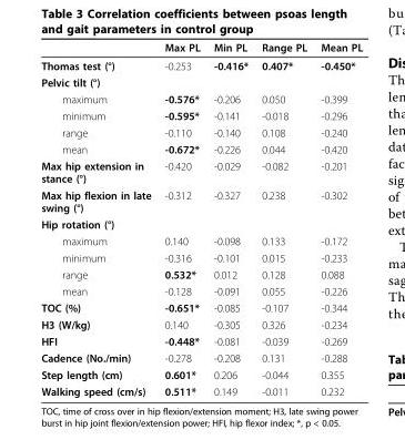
<table><thead><tr><td></td><td>Max PL</td><td>Min PL</td><td>Range PL</td><td>Mean PL</td></tr></thead><tbody><tr><td>Thomas test (°)</td><td>-0.253</td><td>-0.416*</td><td>0.407*</td><td>-0.450*</td></tr><tr><td colspan="5">Pelvic tilt (°)</td></tr><tr><td>maximum</td><td>-0.576*</td><td>-0.206</td><td>0.050</td><td>-0.399</td></tr><tr><td>minimum</td><td>-0.595*</td><td>-0.141</td><td>-0.018</td><td>-0.296</td></tr><tr><td>range</td><td>-0.110</td><td>-0.140</td><td>0.108</td><td>-0.240</td></tr><tr><td>mean</td><td>-0.672*</td><td>-0.226</td><td>0.044</td><td>-0.420</td></tr><tr><td>Max hip extension in stance (°)</td><td>-0.420</td><td>-0.029</td><td>-0.082</td><td>-0.201</td></tr><tr><td>Max hip flexion in late swing (°)</td><td>-0.312</td><td>-0.327</td><td>0.238</td><td>-0.302</td></tr><tr><td colspan="5">Hip rotation (°)</td></tr><tr><td>maximum</td><td>0.140</td><td>-0.098</td><td>0.133</td><td>-0.172</td></tr><tr><td>minimum</td><td>-0.316</td><td>-0.101</td><td>0.015</td><td>-0.233</td></tr><tr><td>range</td><td>0.532*</td><td>0.012</td><td>0.128</td><td>0.088</td></tr><tr><td>mean</td><td>-0.128</td><td>-0.091</td><td>0.055</td><td>-0.226</td></tr><tr><td>TOC (%)</td><td>-0.651*</td><td>-0.085</td><td>-0.107</td><td>-0.344</td></tr><tr><td>H3 (W/kg)</td><td>0.140</td><td>-0.305</td><td>0.326</td><td>-0.234</td></tr><tr><td>HFI</td><td>-0.448*</td><td>-0.081</td><td>-0.039</td><td>-0.269</td></tr><tr><td>Cadence (No./min)</td><td>-0.278</td><td>-0.208</td><td>0.131</td><td>-0.288</td></tr><tr><td>Step length (cm)</td><td>0.601*</td><td>0.206</td><td>-0.044</td><td>0.355</td></tr><tr><td>Walking speed (cm/s)</td><td>0.511*</td><td>0.149</td><td>-0.011</td><td>0.232</td></tr></tbody></table>